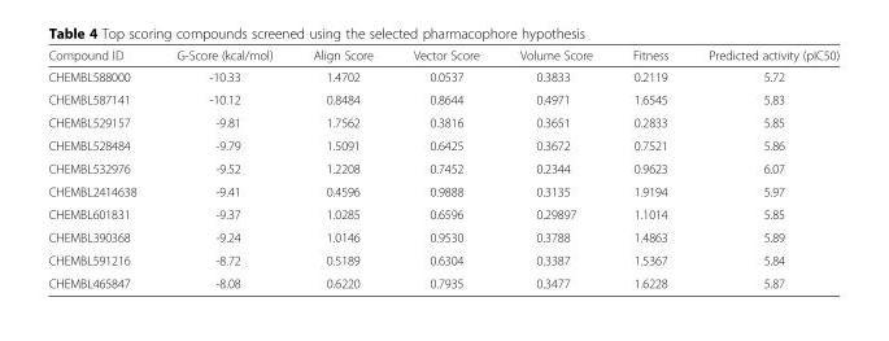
<table><thead><tr><td>Compound ID</td><td>G-Score (kcal/mol)</td><td>Align Score</td><td>Vector Score</td><td>Volume Score</td><td>Fitness</td><td>Predicted activity (pIC50)</td></tr></thead><tbody><tr><td>CHEMBL588000</td><td>-10.33</td><td>1.4702</td><td>0.0537</td><td>0.3833</td><td>0.2119</td><td>5.72</td></tr><tr><td>CHEMBL587141</td><td>-10.12</td><td>0.8484</td><td>0.8644</td><td>0.4971</td><td>1.6545</td><td>5.83</td></tr><tr><td>CHEMBL529157</td><td>-9.81</td><td>1.7562</td><td>0.3816</td><td>0.3651</td><td>0.2833</td><td>5.85</td></tr><tr><td>CHEMBL528484</td><td>-9.79</td><td>1.5091</td><td>0.6425</td><td>0.3672</td><td>0.7521</td><td>5.86</td></tr><tr><td>CHEMBL532976</td><td>-9.52</td><td>1.2208</td><td>0.7452</td><td>0.2344</td><td>0.9623</td><td>6.07</td></tr><tr><td>CHEMBL2414638</td><td>-9.41</td><td>0.4596</td><td>0.9888</td><td>0.3135</td><td>1.9194</td><td>5.97</td></tr><tr><td>CHEMBL601831</td><td>-9.37</td><td>1.0285</td><td>0.6596</td><td>0.29897</td><td>1.1014</td><td>5.85</td></tr><tr><td>CHEMBL390368</td><td>-9.24</td><td>1.0146</td><td>0.9530</td><td>0.3788</td><td>1.4863</td><td>5.89</td></tr><tr><td>CHEMBL591216</td><td>-8.72</td><td>0.5189</td><td>0.6304</td><td>0.3387</td><td>1.5367</td><td>5.84</td></tr><tr><td>CHEMBL465847</td><td>-8.08</td><td>0.6220</td><td>0.7935</td><td>0.3477</td><td>1.6228</td><td>5.87</td></tr></tbody></table>